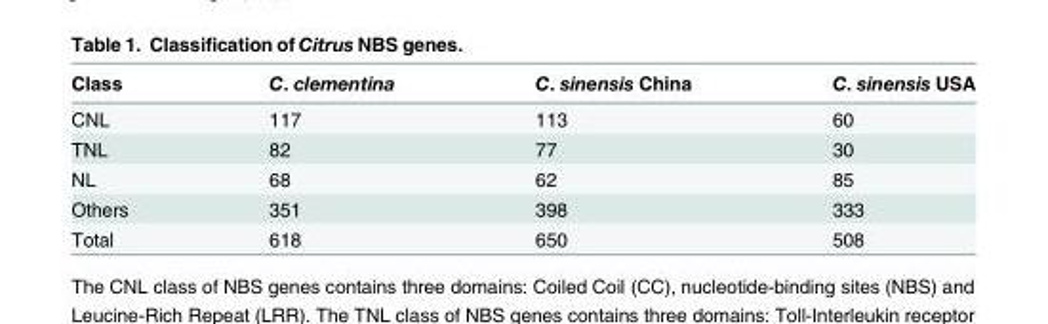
<table><thead><tr><td>Class</td><td>C. clementina</td><td>C. sinensis China</td><td>C. sinensis USA</td></tr></thead><tbody><tr><td>CNL</td><td>117</td><td>113</td><td>60</td></tr><tr><td>TNL</td><td>82</td><td>77</td><td>30</td></tr><tr><td>NL</td><td>68</td><td>62</td><td>85</td></tr><tr><td>Others</td><td>351</td><td>398</td><td>333</td></tr><tr><td>Total</td><td>618</td><td>650</td><td>508</td></tr></tbody></table>